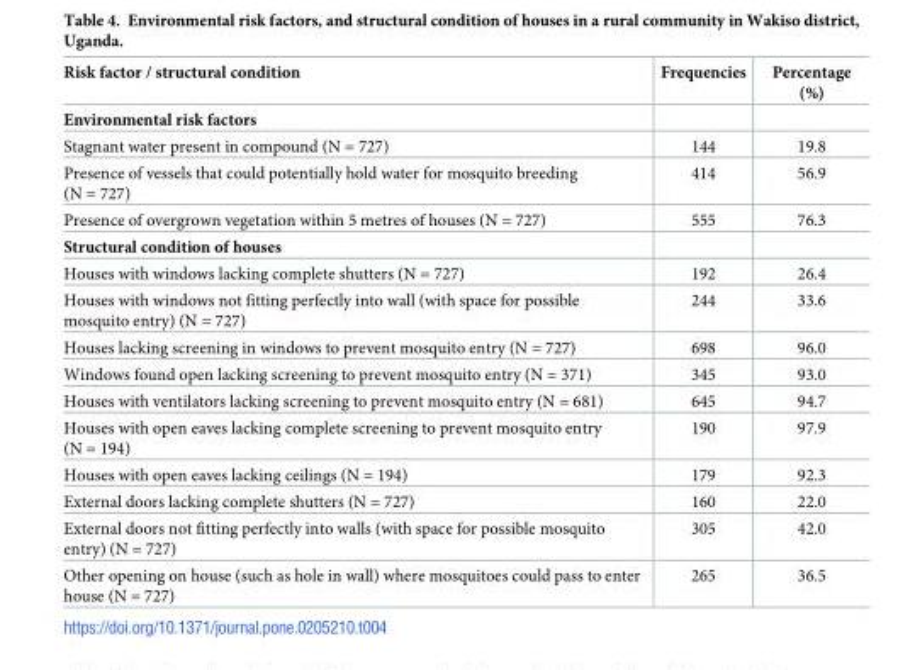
<table><thead><tr><td>Risk factor / structural condition</td><td>Frequencies</td><td>Percentage (%)</td></tr></thead><tbody><tr><td colspan="3">Environmental risk factors</td></tr><tr><td>Stagnant water present in compound (N = 727)</td><td>144</td><td>19.8</td></tr><tr><td>Presence of vessels that could potentially hold water for mosquito breeding (N = 727)</td><td>414</td><td>56.9</td></tr><tr><td>Presence of overgrown vegetation within 5 metres of houses (N = 727)</td><td>555</td><td>76.3</td></tr><tr><td colspan="3">Structural condition of houses</td></tr><tr><td>Houses with windows lacking complete shutters (N = 727)</td><td>192</td><td>26.4</td></tr><tr><td>Houses with windows not fitting perfectly into wall (with space for possible mosquito entry) (N = 727)</td><td>244</td><td>33.6</td></tr><tr><td>Houses lacking screening in windows to prevent mosquito entry (N = 727)</td><td>698</td><td>96.0</td></tr><tr><td>Windows found open lacking screening to prevent mosquito entry (N = 371)</td><td>345</td><td>93.0</td></tr><tr><td>Houses with ventilators lacking screening to prevent mosquito entry (N = 681)</td><td>645</td><td>94.7</td></tr><tr><td>Houses with open eaves lacking complete screening to prevent mosquito entry (N = 194)</td><td>190</td><td>97.9</td></tr><tr><td>Houses with open eaves lacking ceilings (N = 194)</td><td>179</td><td>92.3</td></tr><tr><td>External doors lacking complete shutters (N = 727)</td><td>160</td><td>22.0</td></tr><tr><td>External doors not fitting perfectly into walls (with space for possible mosquito entry) (N = 727)</td><td>305</td><td>42.0</td></tr><tr><td>Other opening on house (such as hole in wall) where mosquitoes could pass to enter house (N = 727)</td><td>265</td><td>36.5</td></tr></tbody></table>